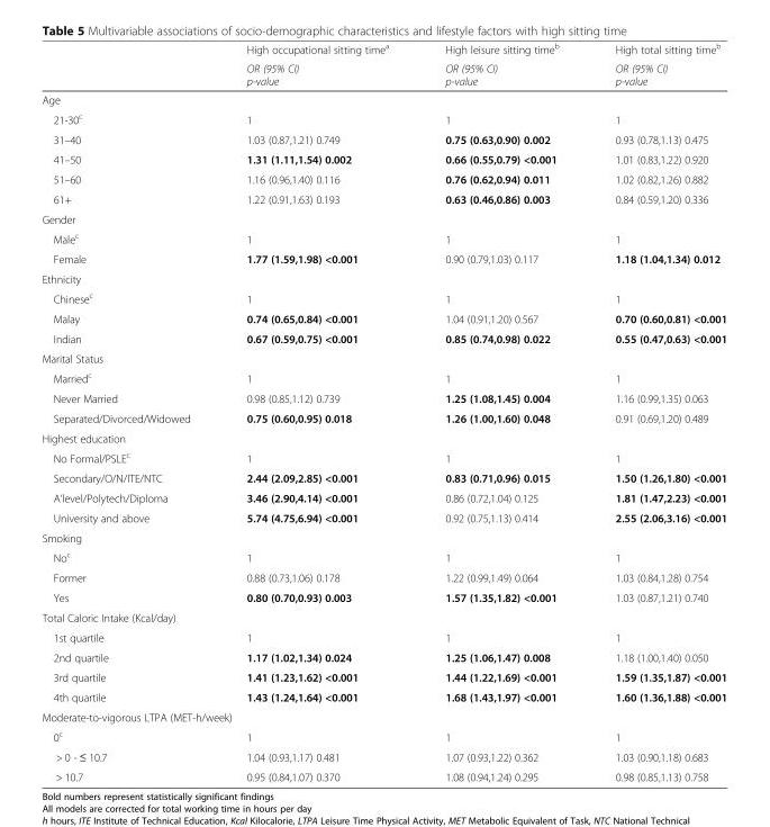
<table><thead><tr><td rowspan="2"></td><td rowspan="2">High occupational sitting time<sup>a</sup> OR (95% CI) p-value</td><td rowspan="2">High leisure sitting time<sup>b</sup> OR (95% CI) p-value</td><td rowspan="2">High total sitting time<sup>b</sup> OR (95% CI) p-value</td></tr><tr></tr></thead><tbody><tr><td colspan="4">Age</td></tr><tr><td>21-30<sup>c</sup></td><td>1</td><td>1</td><td>1</td></tr><tr><td>31–40</td><td>1.03 (0.87,1.21) 0.749</td><td>0.75 (0.63,0.90) 0.002</td><td>0.93 (0.78,1.13) 0.475</td></tr><tr><td>41–50</td><td>1.31 (1.11,1.54) 0.002</td><td>0.66 (0.55,0.79) &lt;0.001</td><td>1.01 (0.83,1.22) 0.920</td></tr><tr><td>51–60</td><td>1.16 (0.96,1.40) 0.116</td><td>0.76 (0.62,0.94) 0.011</td><td>1.02 (0.82,1.26) 0.882</td></tr><tr><td>61+</td><td>1.22 (0.91,1.63) 0.193</td><td>0.63 (0.46,0.86) 0.003</td><td>0.84 (0.59,1.20) 0.336</td></tr><tr><td colspan="4">Gender</td></tr><tr><td>Male<sup>c</sup></td><td>1</td><td>1</td><td>1</td></tr><tr><td>Female</td><td>1.77 (1.59,1.98) &lt;0.001</td><td>0.90 (0.79,1.03) 0.117</td><td>1.18 (1.04,1.34) 0.012</td></tr><tr><td colspan="4">Ethnicity</td></tr><tr><td>Chinese<sup>c</sup></td><td>1</td><td>1</td><td>1</td></tr><tr><td>Malay</td><td>0.74 (0.65,0.84) &lt;0.001</td><td>1.04 (0.91,1.20) 0.567</td><td>0.70 (0.60,0.81) &lt;0.001</td></tr><tr><td>Indian</td><td>0.67 (0.59,0.75) &lt;0.001</td><td>0.85 (0.74,0.98) 0.022</td><td>0.55 (0.47,0.63) &lt;0.001</td></tr><tr><td colspan="4">Marital Status</td></tr><tr><td>Married<sup>c</sup></td><td>1</td><td>1</td><td>1</td></tr><tr><td>Never Married</td><td>0.98 (0.85,1.12) 0.739</td><td>1.25 (1.08,1.45) 0.004</td><td>1.16 (0.99,1.35) 0.063</td></tr><tr><td>Separated/Divorced/Widowed</td><td>0.75 (0.60,0.95) 0.018</td><td>1.26 (1.00,1.60) 0.048</td><td>0.91 (0.69,1.20) 0.489</td></tr><tr><td colspan="4">Highest education</td></tr><tr><td>No Formal/PSLE<sup>c</sup></td><td>1</td><td>1</td><td>1</td></tr><tr><td>Secondary/O/N/ITE/NTC</td><td>2.44 (2.09,2.85) &lt;0.001</td><td>0.83 (0.71,0.96) 0.015</td><td>1.50 (1.26,1.80) &lt;0.001</td></tr><tr><td>A’level/Polytech/Diploma</td><td>3.46 (2.90,4.14) &lt;0.001</td><td>0.86 (0.72,1.04) 0.125</td><td>1.81 (1.47,2.23) &lt;0.001</td></tr><tr><td>University and above</td><td>5.74 (4.75,6.94) &lt;0.001</td><td>0.92 (0.75,1.13) 0.414</td><td>2.55 (2.06,3.16) &lt;0.001</td></tr><tr><td colspan="4">Smoking</td></tr><tr><td>No<sup>c</sup></td><td>1</td><td>1</td><td>1</td></tr><tr><td>Former</td><td>0.88 (0.73,1.06) 0.178</td><td>1.22 (0.99,1.49) 0.064</td><td>1.03 (0.84,1.28) 0.754</td></tr><tr><td>Yes</td><td>0.80 (0.70,0.93) 0.003</td><td>1.57 (1.35,1.82) &lt;0.001</td><td>1.03 (0.87,1.21) 0.740</td></tr><tr><td colspan="4">Total Caloric Intake (Kcal/day)</td></tr><tr><td>1st quartile</td><td>1</td><td>1</td><td>1</td></tr><tr><td>2nd quartile</td><td>1.17 (1.02,1.34) 0.024</td><td>1.25 (1.06,1.47) 0.008</td><td>1.18 (1.00,1.40) 0.050</td></tr><tr><td>3rd quartile</td><td>1.41 (1.23,1.62) &lt;0.001</td><td>1.44 (1.22,1.69) &lt;0.001</td><td>1.59 (1.35,1.87) &lt;0.001</td></tr><tr><td>4th quartile</td><td>1.43 (1.24,1.64) &lt;0.001</td><td>1.68 (1.43,1.97) &lt;0.001</td><td>1.60 (1.36,1.88) &lt;0.001</td></tr><tr><td colspan="4">Moderate-to-vigorous LTPA (MET-h/week)</td></tr><tr><td>0<sup>c</sup></td><td>1</td><td>1</td><td>1</td></tr><tr><td>&gt; 0 - ≤ 10.7</td><td>1.04 (0.93,1.17) 0.481</td><td>1.07 (0.93,1.22) 0.362</td><td>1.03 (0.90,1.18) 0.683</td></tr><tr><td>&gt; 10.7</td><td>0.95 (0.84,1.07) 0.370</td><td>1.08 (0.94,1.24) 0.295</td><td>0.98 (0.85,1.13) 0.758</td></tr></tbody></table>